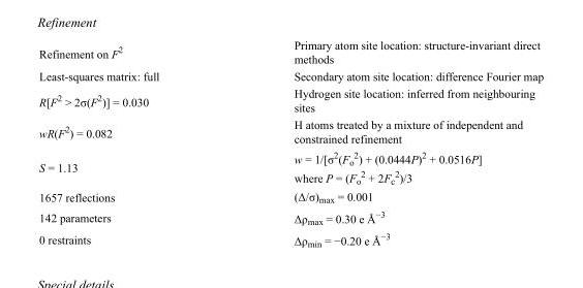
<table><tbody><tr><td>Refinement on F<sup>2</sup></td><td>Primary atom site location: structure-invariant direct methods</td></tr><tr><td>Least-squares matrix: full</td><td>Secondary atom site location: difference Fourier map</td></tr><tr><td>R[F<sup>2</sup> &gt; 2σ(F<sup>2</sup>)] = 0.030</td><td>Hydrogen site location: inferred from neighbouring sites</td></tr><tr><td>wR(F<sup>2</sup>) = 0.082</td><td>H atoms treated by a mixture of independent and constrained refinement</td></tr><tr><td>S = 1.13</td><td>w = 1/[σ<sup>2</sup>(F<sub>o</sub> <sup>2</sup>) + (0.0444P)<sup>2</sup> + 0.0516P] where P = (F<sub>o</sub> <sup>2</sup> + 2F<sub>c</sub> <sup>2</sup>)/3</td></tr><tr><td>1657 reflections</td><td>(Δ/σ)<sub>max</sub> = 0.001</td></tr><tr><td>142 parameters</td><td>Δρ<sub>max</sub> = 0.30 e Å<sup>−3</sup></td></tr><tr><td>0 restraints</td><td>Δρ<sub>min</sub> = −0.20 e Å<sup>−3</sup></td></tr></tbody></table>